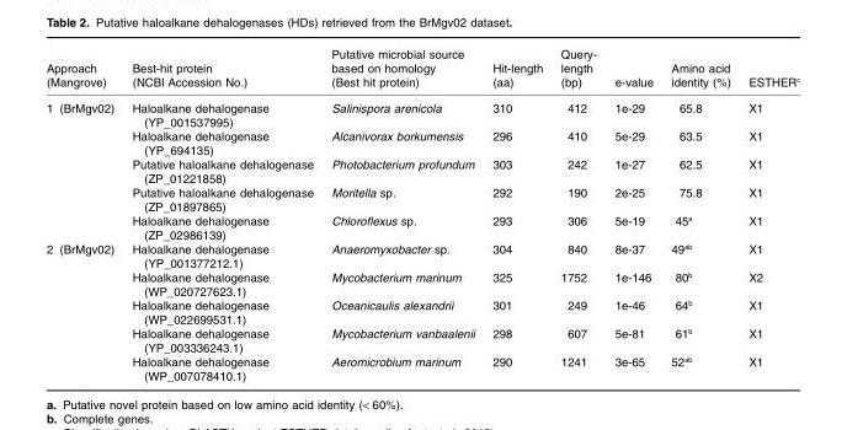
<table><thead><tr><td>Approach (Mangrove)</td><td>Best-hit protein (NCBI Accession No.)</td><td>Putative microbial source based on homology (Best hit protein)</td><td>Hit-length (aa)</td><td>Query- length (bp)</td><td>e-value</td><td>Amino acid identity (%)</td><td>ESTHER<sup>c</sup></td></tr></thead><tbody><tr><td rowspan="5">1 (BrMgv02)</td><td>Haloalkane dehalogenase (YP_001537995)</td><td>Salinispora arenicola</td><td>310</td><td>412</td><td>1e-29</td><td>65.8</td><td>X1</td></tr><tr><td>Haloalkane dehalogenase (YP_694135)</td><td>Alcanivorax borkumensis</td><td>296</td><td>410</td><td>5e-29</td><td>63.5</td><td>X1</td></tr><tr><td>Putative haloalkane dehalogenase (ZP_01221858)</td><td>Photobacterium profundum</td><td>303</td><td>242</td><td>1e-27</td><td>62.5</td><td>X1</td></tr><tr><td>Putative haloalkane dehalogenase (ZP_01897865)</td><td>Moritella sp.</td><td>292</td><td>190</td><td>2e-25</td><td>75.8</td><td>X1</td></tr><tr><td>Haloalkane dehalogenase (ZP_02986139)</td><td>Chloroflexus sp.</td><td>293</td><td>306</td><td>5e-19</td><td>45<sup>a</sup></td><td>X1</td></tr><tr><td rowspan="5">2 (BrMgv02)</td><td>Haloalkane dehalogenase (YP_001377212.1)</td><td>Anaeromyxobacter sp.</td><td>304</td><td>840</td><td>8e-37</td><td>49<sup>ab</sup></td><td>X1</td></tr><tr><td>Haloalkane dehalogenase (WP_020727623.1)</td><td>Mycobacterium marinum</td><td>325</td><td>1752</td><td>1e-146</td><td>80b</td><td>X2</td></tr><tr><td>Haloalkane dehalogenase (WP_022699531.1)</td><td>Oceanicaulis alexandrii</td><td>301</td><td>249</td><td>1e-46</td><td>64b</td><td>X1</td></tr><tr><td>Haloalkane dehalogenase (YP_003336243.1)</td><td>Mycobacterium vanbaalenii</td><td>298</td><td>607</td><td>5e-81</td><td>61b</td><td>X1</td></tr><tr><td>Haloalkane dehalogenase (WP_007078410.1)</td><td>Aeromicrobium marinum</td><td>290</td><td>1241</td><td>3e-65</td><td>52<sup>ab</sup></td><td>X1</td></tr></tbody></table>